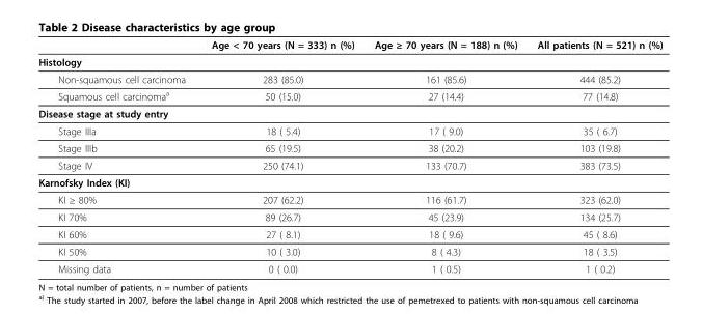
<table><thead><tr><td></td><td>Age &lt; 70 years (N = 333) n (%)</td><td>Age ≥ 70 years (N = 188) n (%)</td><td>All patients (N = 521) n (%)</td></tr></thead><tbody><tr><td colspan="4">Histology</td></tr><tr><td>Non-squamous cell carcinoma</td><td>283 (85.0)</td><td>161 (85.6)</td><td>444 (85.2)</td></tr><tr><td>Squamous cell carcinoma<sup>a</sup></td><td>50 (15.0)</td><td>27 (14.4)</td><td>77 (14.8)</td></tr><tr><td colspan="4">Disease stage at study entry</td></tr><tr><td>Stage IIIa</td><td>18 ( 5.4)</td><td>17 ( 9.0)</td><td>35 ( 6.7)</td></tr><tr><td>Stage IIIb</td><td>65 (19.5)</td><td>38 (20.2)</td><td>103 (19.8)</td></tr><tr><td>Stage IV</td><td>250 (74.1)</td><td>133 (70.7)</td><td>383 (73.5)</td></tr><tr><td colspan="4">Karnofsky Index (KI)</td></tr><tr><td>KI ≥ 80%</td><td>207 (62.2)</td><td>116 (61.7)</td><td>323 (62.0)</td></tr><tr><td>KI 70%</td><td>89 (26.7)</td><td>45 (23.9)</td><td>134 (25.7)</td></tr><tr><td>KI 60%</td><td>27 ( 8.1)</td><td>18 ( 9.6)</td><td>45 ( 8.6)</td></tr><tr><td>KI 50%</td><td>10 ( 3.0)</td><td>8 ( 4.3)</td><td>18 ( 3.5)</td></tr><tr><td>Missing data</td><td>0 ( 0.0)</td><td>1 ( 0.5)</td><td>1 ( 0.2)</td></tr></tbody></table>